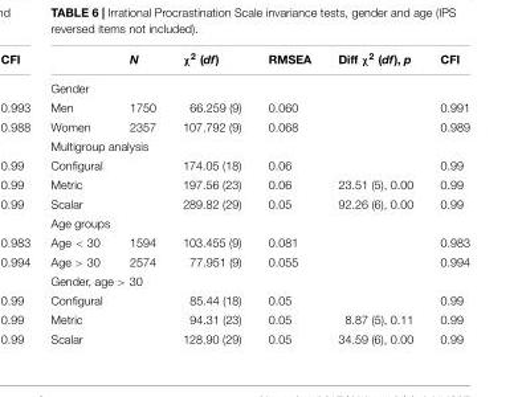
<table><thead><tr><td></td><td>N</td><td>χ<sup>2</sup> (df)</td><td>RMSEA</td><td>Diff χ<sup>2</sup> (df), p</td><td>CFI</td></tr></thead><tbody><tr><td colspan="6">Gender</td></tr><tr><td>Men</td><td>1750</td><td>66.259 (9)</td><td>0.060</td><td></td><td>0.991</td></tr><tr><td>Women</td><td>2357</td><td>107.792 (9)</td><td>0.068</td><td></td><td>0.989</td></tr><tr><td colspan="6">Multigroup analysis</td></tr><tr><td>Configural</td><td></td><td>174.05 (18)</td><td>0.06</td><td></td><td>0.99</td></tr><tr><td>Metric</td><td></td><td>197.56 (23)</td><td>0.06</td><td>23.51 (5), 0.00</td><td>0.99</td></tr><tr><td>Scalar</td><td></td><td>289.82 (29)</td><td>0.05</td><td>92.26 (6), 0.00</td><td>0.99</td></tr><tr><td colspan="6">Age groups</td></tr><tr><td>Age &lt; 30</td><td>1594</td><td>103.455 (9)</td><td>0.081</td><td></td><td>0.983</td></tr><tr><td>Age &gt; 30</td><td>2574</td><td>77.951 (9)</td><td>0.055</td><td></td><td>0.994</td></tr><tr><td colspan="6">Gender, age &gt; 30</td></tr><tr><td>Configural</td><td></td><td>85.44 (18)</td><td>0.05</td><td></td><td>0.99</td></tr><tr><td>Metric</td><td></td><td>94.31 (23)</td><td>0.05</td><td>8.87 (5), 0.11</td><td>0.99</td></tr><tr><td>Scalar</td><td></td><td>128.90 (29)</td><td>0.05</td><td>34.59 (6), 0.00</td><td>0.99</td></tr></tbody></table>